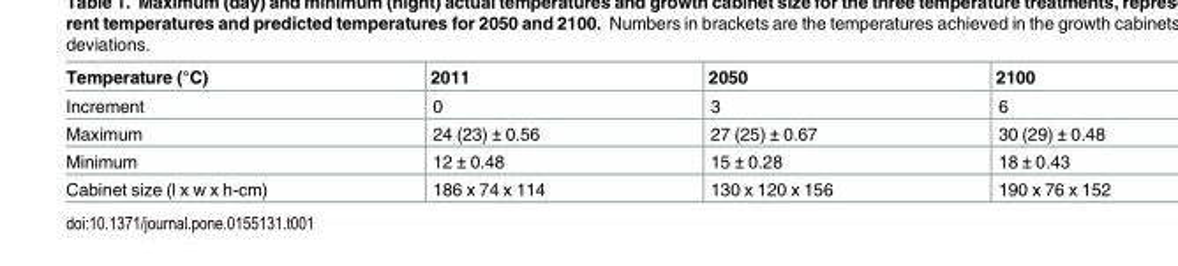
<table><thead><tr><td>Temperature (°C)</td><td>2011</td><td>2050</td><td>2100</td></tr></thead><tbody><tr><td>Increment</td><td>0</td><td>3</td><td>6</td></tr><tr><td>Maximum</td><td>24 (23) ± 0.56</td><td>27 (25) ± 0.67</td><td>30 (29) ± 0.48</td></tr><tr><td>Minimum</td><td>12 ± 0.48</td><td>15 ± 0.28</td><td>18 ± 0.43</td></tr><tr><td>Cabinet size (l x w x h-cm)</td><td>186 x 74 x 114</td><td>130 x 120 x 156</td><td>190 x 76 x 152</td></tr></tbody></table>